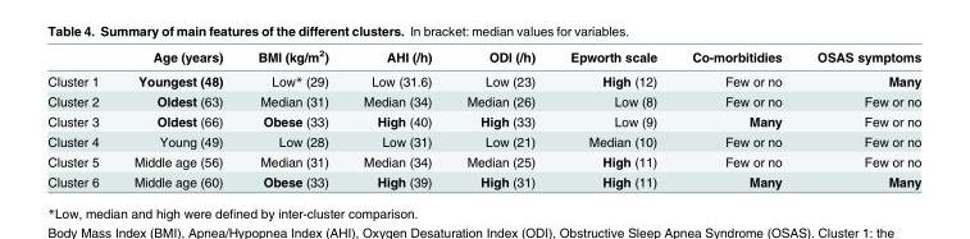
<table><thead><tr><td></td><td>Age (years)</td><td>BMI (kg/m<sup>2</sup>)</td><td>AHI (/h)</td><td>ODI (/h)</td><td>Epworth scale</td><td>Co-morbitidies</td><td>OSAS symptoms</td></tr></thead><tbody><tr><td>Cluster 1</td><td>Youngest (48)</td><td>Low* (29)</td><td>Low (31.6)</td><td>Low (23)</td><td>High (12)</td><td>Few or no</td><td>Many</td></tr><tr><td>Cluster 2</td><td>Oldest (63)</td><td>Median (31)</td><td>Median (34)</td><td>Median (26)</td><td>Low (8)</td><td>Few or no</td><td>Few or no</td></tr><tr><td>Cluster 3</td><td>Oldest (66)</td><td>Obese (33)</td><td>High (40)</td><td>High (33)</td><td>Low (9)</td><td>Many</td><td>Few or no</td></tr><tr><td>Cluster 4</td><td>Young (49)</td><td>Low (28)</td><td>Low (31)</td><td>Low (21)</td><td>Median (10)</td><td>Few or no</td><td>Few or no</td></tr><tr><td>Cluster 5</td><td>Middle age (56)</td><td>Median (31)</td><td>Median (34)</td><td>Median (25)</td><td>High (11)</td><td>Few or no</td><td>Few or no</td></tr><tr><td>Cluster 6</td><td>Middle age (60)</td><td>Obese (33)</td><td>High (39)</td><td>High (31)</td><td>High (11)</td><td>Many</td><td>Many</td></tr></tbody></table>